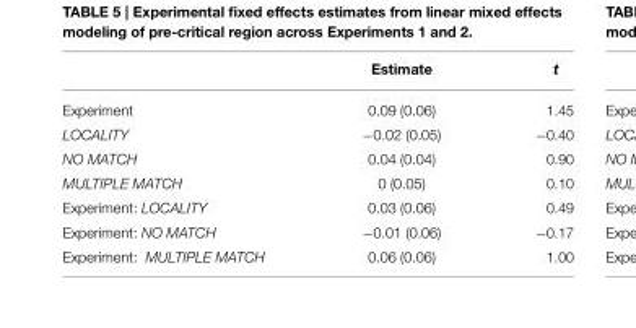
<table><thead><tr><td></td><td>Estimate</td><td>t</td></tr></thead><tbody><tr><td>Experiment</td><td>0.09 (0.06)</td><td>1.45</td></tr><tr><td>LOCALITY</td><td>−0.02 (0.05)</td><td>−0.40</td></tr><tr><td>NO MATCH</td><td>0.04 (0.04)</td><td>0.90</td></tr><tr><td>MULTIPLE MATCH</td><td>0 (0.05)</td><td>0.10</td></tr><tr><td>Experiment: LOCALITY</td><td>0.03 (0.06)</td><td>0.49</td></tr><tr><td>Experiment: NO MATCH</td><td>−0.01 (0.06)</td><td>−0.17</td></tr><tr><td>Experiment: MULTIPLE MATCH</td><td>0.06 (0.06)</td><td>1.00</td></tr></tbody></table>